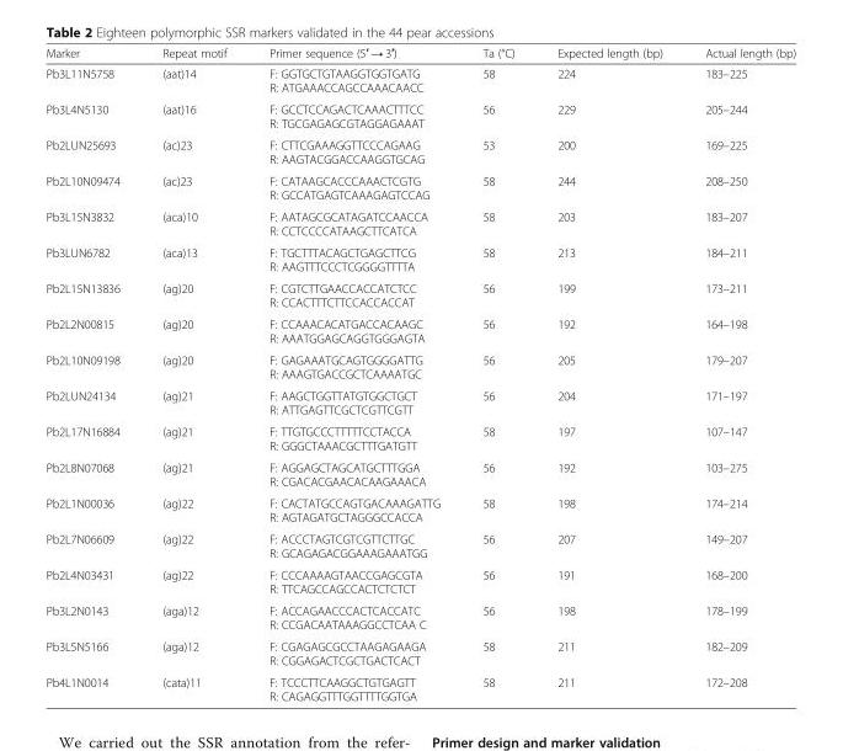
<table><thead><tr><td>Marker</td><td>Repeat motif</td><td>Primer sequence (5′ → 3′)</td><td>Ta (°C)</td><td>Expected length (bp)</td><td>Actual length (bp)</td></tr></thead><tbody><tr><td>Pb3L11N5758</td><td>(aat)14</td><td>F: GGTGCTGTAAGGTGGTGATG R: ATGAAACCAGCCAAACAACC</td><td>58</td><td>224</td><td>183–225</td></tr><tr><td>Pb3L4N5130</td><td>(aat)16</td><td>F: GCCTCCAGACTCAAACTTTCC R: TGCGAGAGCGTAGGAGAAAT</td><td>56</td><td>229</td><td>205–244</td></tr><tr><td>Pb2LUN25693</td><td>(ac)23</td><td>F: CTTCGAAAGGTTCCCAGAAG R: AAGTACGGACCAAGGTGCAG</td><td>53</td><td>200</td><td>169–225</td></tr><tr><td>Pb2L10N09474</td><td>(ac)23</td><td>F: CATAAGCACCCAAACTCGTG R: GCCATGAGTCAAAGAGTCCAG</td><td>58</td><td>244</td><td>208–250</td></tr><tr><td>Pb3L15N3832</td><td>(aca)10</td><td>F: AATAGCGCATAGATCCAACCA R: CCTCCCCATAAGCTTCATCA</td><td>58</td><td>203</td><td>183–207</td></tr><tr><td>Pb3LUN6782</td><td>(aca)13</td><td>F: TGCTTTACAGCTGAGCTTCG R: AAGTTTCCCTCGGGGTTTTA</td><td>58</td><td>213</td><td>184–211</td></tr><tr><td>Pb2L15N13836</td><td>(ag)20</td><td>F: CGTCTTGAACCACCATCTCC R: CCACTTTCTTCCACCACCAT</td><td>56</td><td>199</td><td>173–211</td></tr><tr><td>Pb2L2N00815</td><td>(ag)20</td><td>F: CCAAACACATGACCACAAGC R: AAATGGAGCAGGTGGGAGTA</td><td>56</td><td>192</td><td>164–198</td></tr><tr><td>Pb2L10N09198</td><td>(ag)20</td><td>F: GAGAAATGCAGTGGGGATTG R: AAAGTGACCGCTCAAAATGC</td><td>56</td><td>205</td><td>179–207</td></tr><tr><td>Pb2LUN24134</td><td>(ag)21</td><td>F: AAGCTGGTTATGTGGCTGCT R: ATTGAGTTCGCTCGTTCGTT</td><td>56</td><td>204</td><td>171–197</td></tr><tr><td>Pb2L17N16884</td><td>(ag)21</td><td>F: TTGTGCCCTTTTTCCTACCA R: GGGCTAAACGCTTTGATGTT</td><td>58</td><td>197</td><td>107–147</td></tr><tr><td>Pb2L8N07068</td><td>(ag)21</td><td>F: AGGAGCTAGCATGCTTTGGA R: CGACACGAACACAAGAAACA</td><td>56</td><td>192</td><td>103–275</td></tr><tr><td>Pb2L1N00036</td><td>(ag)22</td><td>F: CACTATGCCAGTGACAAAGATTG R: AGTAGATGCTAGGGCCACCA</td><td>58</td><td>198</td><td>174–214</td></tr><tr><td>Pb2L7N06609</td><td>(ag)22</td><td>F: ACCCTAGTCGTCGTTCTTGC R: GCAGAGACGGAAAGAAATGG</td><td>56</td><td>207</td><td>149–207</td></tr><tr><td>Pb2L4N03431</td><td>(ag)22</td><td>F: CCCAAAAGTAACCGAGCGTA R: TTCAGCCAGCCACTCTCTCT</td><td>56</td><td>191</td><td>168–200</td></tr><tr><td>Pb3L2N0143</td><td>(aga)12</td><td>F: ACCAGAACCCACTCACCATC R: CCGACAATAAAGGCCTCAA C</td><td>56</td><td>198</td><td>178–199</td></tr><tr><td>Pb3L5N5166</td><td>(aga)12</td><td>F: CGAGAGCGCCTAAGAGAAGA R: CGGAGACTCGCTGACTCACT</td><td>58</td><td>211</td><td>182–209</td></tr><tr><td>Pb4L1N0014</td><td>(cata)11</td><td>F: TCCCTTCAAGGCTGTGAGTT R: CAGAGGTTTGGTTTTGGTGA</td><td>58</td><td>211</td><td>172–208</td></tr></tbody></table>